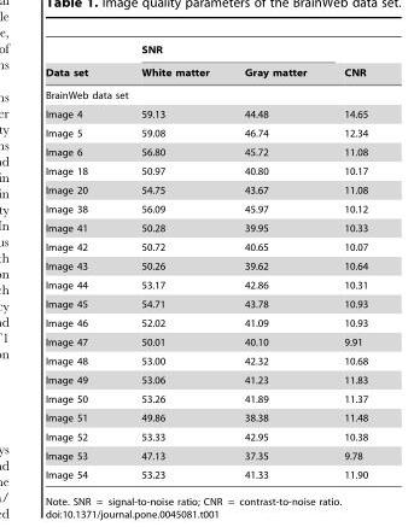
<table><thead><tr><td rowspan="2">Data set</td><td colspan="2">SNR</td><td rowspan="2">CNR</td></tr><tr><td>White matter</td><td>Gray matter</td></tr></thead><tbody><tr><td colspan="4">BrainWeb data set</td></tr><tr><td>Image 4</td><td>59.13</td><td>44.48</td><td>14.65</td></tr><tr><td>Image 5</td><td>59.08</td><td>46.74</td><td>12.34</td></tr><tr><td>Image 6</td><td>56.80</td><td>45.72</td><td>11.08</td></tr><tr><td>Image 18</td><td>50.97</td><td>40.80</td><td>10.17</td></tr><tr><td>Image 20</td><td>54.75</td><td>43.67</td><td>11.08</td></tr><tr><td>Image 38</td><td>56.09</td><td>45.97</td><td>10.12</td></tr><tr><td>Image 41</td><td>50.28</td><td>39.95</td><td>10.33</td></tr><tr><td>Image 42</td><td>50.72</td><td>40.65</td><td>10.07</td></tr><tr><td>Image 43</td><td>50.26</td><td>39.62</td><td>10.64</td></tr><tr><td>Image 44</td><td>53.17</td><td>42.86</td><td>10.31</td></tr><tr><td>Image 45</td><td>54.71</td><td>43.78</td><td>10.93</td></tr><tr><td>Image 46</td><td>52.02</td><td>41.09</td><td>10.93</td></tr><tr><td>Image 47</td><td>50.01</td><td>40.10</td><td>9.91</td></tr><tr><td>Image 48</td><td>53.00</td><td>42.32</td><td>10.68</td></tr><tr><td>Image 49</td><td>53.06</td><td>41.23</td><td>11.83</td></tr><tr><td>Image 50</td><td>53.26</td><td>41.89</td><td>11.37</td></tr><tr><td>Image 51</td><td>49.86</td><td>38.38</td><td>11.48</td></tr><tr><td>Image 52</td><td>53.33</td><td>42.95</td><td>10.38</td></tr><tr><td>Image 53</td><td>47.13</td><td>37.35</td><td>9.78</td></tr><tr><td>Image 54</td><td>53.23</td><td>41.33</td><td>11.90</td></tr></tbody></table>